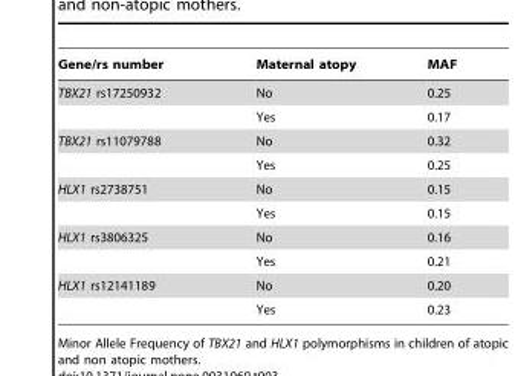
<table><thead><tr><td>Gene/rs number</td><td>Maternal atopy</td><td>MAF</td></tr></thead><tbody><tr><td rowspan="2">TBX21 rs17250932</td><td>No</td><td>0.25</td></tr><tr><td>Yes</td><td>0.17</td></tr><tr><td rowspan="2">TBX21 rs11079788</td><td>No</td><td>0.32</td></tr><tr><td>Yes</td><td>0.25</td></tr><tr><td rowspan="2">HLX1 rs2738751</td><td>No</td><td>0.15</td></tr><tr><td>Yes</td><td>0.15</td></tr><tr><td rowspan="2">HLX1 rs3806325</td><td>No</td><td>0.16</td></tr><tr><td>Yes</td><td>0.21</td></tr><tr><td rowspan="2">HLX1 rs12141189</td><td>No</td><td>0.20</td></tr><tr><td>Yes</td><td>0.23</td></tr></tbody></table>